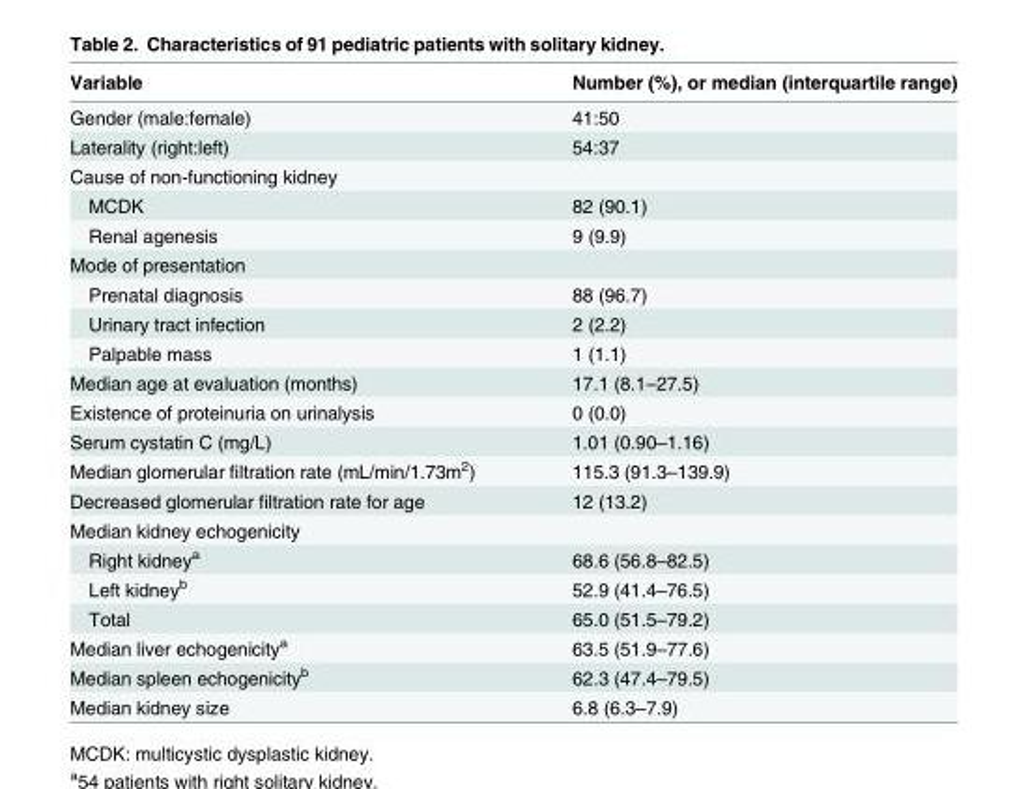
<table><thead><tr><td>Variable</td><td>Number (%), or median (interquartile range)</td></tr></thead><tbody><tr><td>Gender (male:female)</td><td>41:50</td></tr><tr><td>Laterality (right:left)</td><td>54:37</td></tr><tr><td colspan="2">Cause of non-functioning kidney</td></tr><tr><td>MCDK</td><td>82 (90.1)</td></tr><tr><td>Renal agenesis</td><td>9 (9.9)</td></tr><tr><td colspan="2">Mode of presentation</td></tr><tr><td>Prenatal diagnosis</td><td>88 (96.7)</td></tr><tr><td>Urinary tract infection</td><td>2 (2.2)</td></tr><tr><td>Palpable mass</td><td>1 (1.1)</td></tr><tr><td>Median age at evaluation (months)</td><td>17.1 (8.1–27.5)</td></tr><tr><td>Existence of proteinuria on urinalysis</td><td>0 (0.0)</td></tr><tr><td>Serum cystatin C (mg/L)</td><td>1.01 (0.90–1.16)</td></tr><tr><td>Median glomerular filtration rate (mL/min/1.73m<sup>2</sup>)</td><td>115.3 (91.3–139.9)</td></tr><tr><td>Decreased glomerular filtration rate for age</td><td>12 (13.2)</td></tr><tr><td colspan="2">Median kidney echogenicity</td></tr><tr><td>Right kidney<sup>a</sup></td><td>68.6 (56.8–82.5)</td></tr><tr><td>Left kidney<sup>b</sup></td><td>52.9 (41.4–76.5)</td></tr><tr><td>Total</td><td>65.0 (51.5–79.2)</td></tr><tr><td>Median liver echogenicity<sup>a</sup></td><td>63.5 (51.9–77.6)</td></tr><tr><td>Median spleen echogenicity<sup>b</sup></td><td>62.3 (47.4–79.5)</td></tr><tr><td>Median kidney size</td><td>6.8 (6.3–7.9)</td></tr></tbody></table>